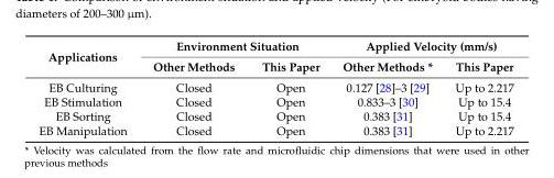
<table><thead><tr><td rowspan="2">Applications</td><td colspan="2">Environment Situation</td><td colspan="2">Applied Velocity (mm/s)</td></tr><tr><td>Other Methods</td><td>This Paper</td><td>Other Methods *</td><td>This Paper</td></tr></thead><tbody><tr><td>EB Culturing</td><td>Closed</td><td>Open</td><td>0.127 [28]–3 [29]</td><td>Up to 2.217</td></tr><tr><td>EB Stimulation</td><td>Closed</td><td>Open</td><td>0.833–3 [30]</td><td>Up to 15.4</td></tr><tr><td>EB Sorting</td><td>Closed</td><td>Open</td><td>0.383 [31]</td><td>Up to 15.4</td></tr><tr><td>EB Manipulation</td><td>Closed</td><td>Open</td><td>0.383 [31]</td><td>Up to 2.217</td></tr></tbody></table>